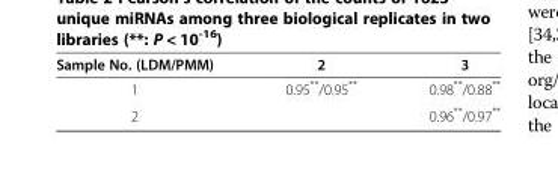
<table><thead><tr><td>Sample No. (LDM/PMM)</td><td>2</td><td>3</td></tr></thead><tbody><tr><td>1</td><td>0.95**/0.95**</td><td>0.98**/0.88**</td></tr><tr><td>2</td><td></td><td>0.96**/0.97**</td></tr></tbody></table>